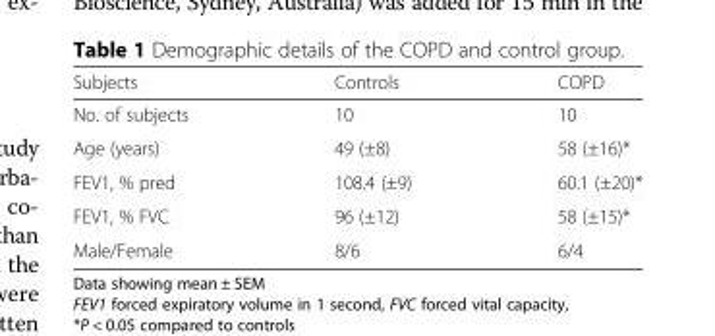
<table><thead><tr><td>Subjects</td><td>Controls</td><td>COPD</td></tr></thead><tbody><tr><td>No. of subjects</td><td>10</td><td>10</td></tr><tr><td>Age (years)</td><td>49 (±8)</td><td>58 (±16)*</td></tr><tr><td>FEV1, % pred</td><td>108.4 (±9)</td><td>60.1 (±20)*</td></tr><tr><td>FEV1, % FVC</td><td>96 (±12)</td><td>58 (±15)*</td></tr><tr><td>Male/Female</td><td>8/6</td><td>6/4</td></tr></tbody></table>